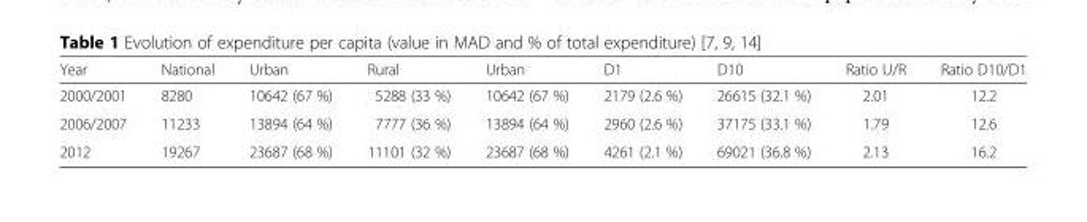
<table><thead><tr><td>Year</td><td>National</td><td>Urban</td><td>Rural</td><td>Urban</td><td>D1</td><td>D10</td><td>Ratio U/R</td><td>Ratio D10/D1</td></tr></thead><tbody><tr><td>2000/2001</td><td>8280</td><td>10642 (67 %)</td><td>5288 (33 %)</td><td>10642 (67 %)</td><td>2179 (2.6 %)</td><td>26615 (32.1 %)</td><td>2.01</td><td>12.2</td></tr><tr><td>2006/2007</td><td>11233</td><td>13894 (64 %)</td><td>7777 (36 %)</td><td>13894 (64 %)</td><td>2960 (2.6 %)</td><td>37175 (33.1 %)</td><td>1.79</td><td>12.6</td></tr><tr><td>2012</td><td>19267</td><td>23687 (68 %)</td><td>11101 (32 %)</td><td>23687 (68 %)</td><td>4261 (2.1 %)</td><td>69021 (36.8 %)</td><td>2.13</td><td>16.2</td></tr></tbody></table>